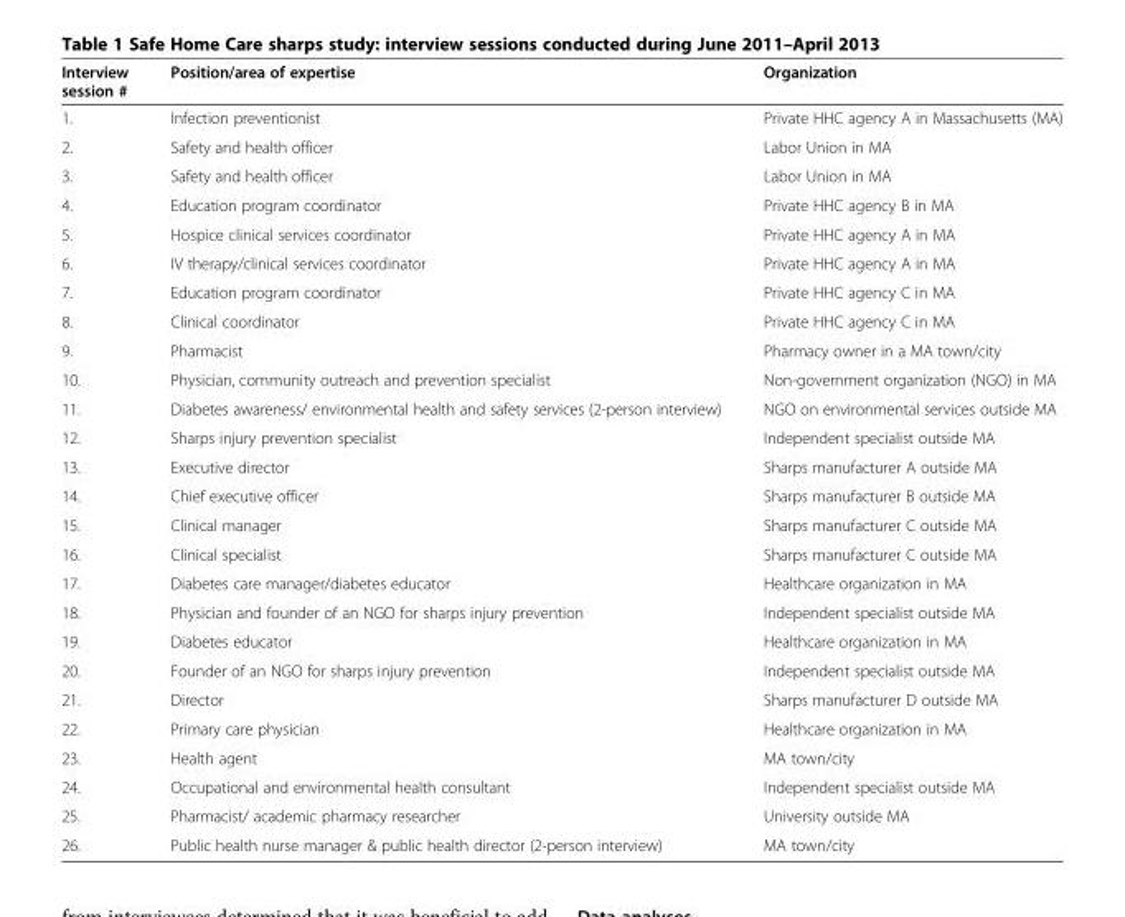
<table><thead><tr><td>Interview session #</td><td>Position/area of expertise</td><td>Organization</td></tr></thead><tbody><tr><td>1.</td><td>Infection preventionist</td><td>Private HHC agency A in Massachusetts (MA)</td></tr><tr><td>2.</td><td>Safety and health officer</td><td>Labor Union in MA</td></tr><tr><td>3.</td><td>Safety and health officer</td><td>Labor Union in MA</td></tr><tr><td>4.</td><td>Education program coordinator</td><td>Private HHC agency B in MA</td></tr><tr><td>5.</td><td>Hospice clinical services coordinator</td><td>Private HHC agency A in MA</td></tr><tr><td>6.</td><td>IV therapy/clinical services coordinator</td><td>Private HHC agency A in MA</td></tr><tr><td>7.</td><td>Education program coordinator</td><td>Private HHC agency C in MA</td></tr><tr><td>8.</td><td>Clinical coordinator</td><td>Private HHC agency C in MA</td></tr><tr><td>9.</td><td>Pharmacist</td><td>Pharmacy owner in a MA town/city</td></tr><tr><td>10.</td><td>Physician, community outreach and prevention specialist</td><td>Non-government organization (NGO) in MA</td></tr><tr><td>11.</td><td>Diabetes awareness/ environmental health and safety services (2-person interview)</td><td>NGO on environmental services outside MA</td></tr><tr><td>12.</td><td>Sharps injury prevention specialist</td><td>Independent specialist outside MA</td></tr><tr><td>13.</td><td>Executive director</td><td>Sharps manufacturer A outside MA</td></tr><tr><td>14.</td><td>Chief executive officer</td><td>Sharps manufacturer B outside MA</td></tr><tr><td>15.</td><td>Clinical manager</td><td>Sharps manufacturer C outside MA</td></tr><tr><td>16.</td><td>Clinical specialist</td><td>Sharps manufacturer C outside MA</td></tr><tr><td>17.</td><td>Diabetes care manager/diabetes educator</td><td>Healthcare organization in MA</td></tr><tr><td>18.</td><td>Physician and founder of an NGO for sharps injury prevention</td><td>Independent specialist outside MA</td></tr><tr><td>19.</td><td>Diabetes educator</td><td>Healthcare organization in MA</td></tr><tr><td>20.</td><td>Founder of an NGO for sharps injury prevention</td><td>Independent specialist outside MA</td></tr><tr><td>21.</td><td>Director</td><td>Sharps manufacturer D outside MA</td></tr><tr><td>22.</td><td>Primary care physician</td><td>Healthcare organization in MA</td></tr><tr><td>23.</td><td>Health agent</td><td>MA town/city</td></tr><tr><td>24.</td><td>Occupational and environmental health consultant</td><td>Independent specialist outside MA</td></tr><tr><td>25.</td><td>Pharmacist/ academic pharmacy researcher</td><td>University outside MA</td></tr><tr><td>26.</td><td>Public health nurse manager &amp; public health director (2-person interview)</td><td>MA town/city</td></tr></tbody></table>